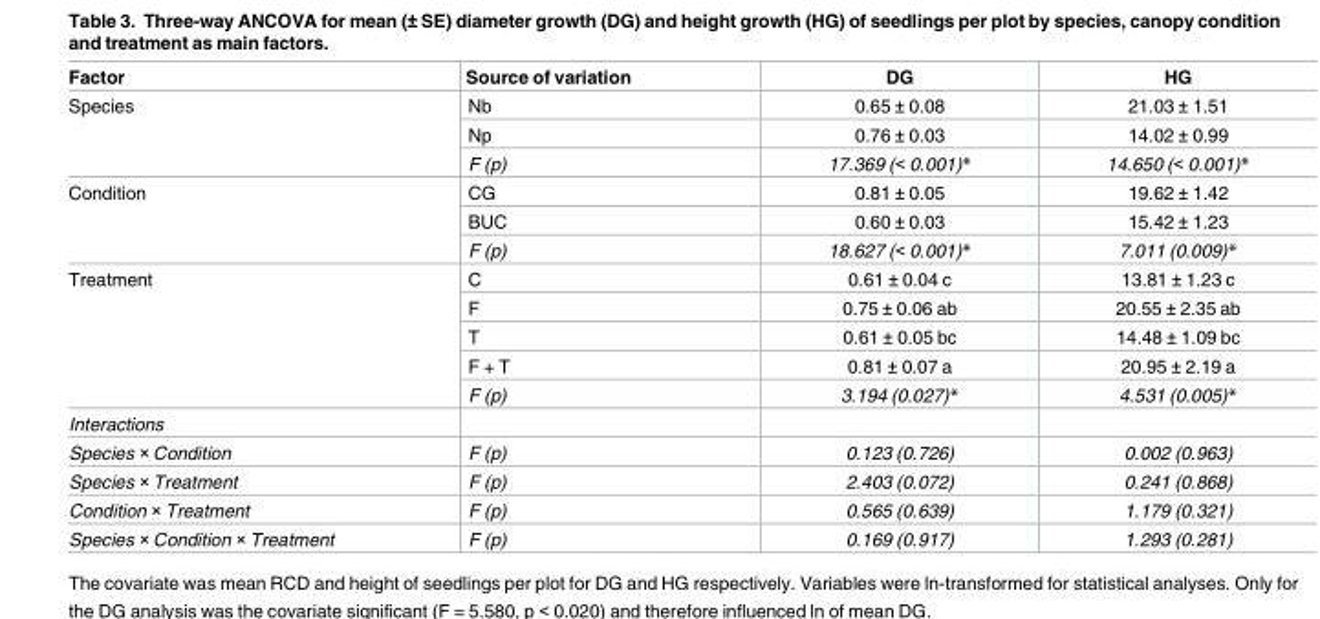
<table><thead><tr><td>Factor</td><td>Source of variation</td><td>DG</td><td>HG</td></tr></thead><tbody><tr><td rowspan="3">Species</td><td>Nb</td><td>0.65 ± 0.08</td><td>21.03 ± 1.51</td></tr><tr><td>Np</td><td>0.76 ± 0.03</td><td>14.02 ± 0.99</td></tr><tr><td>F (p)</td><td>17.369 (&lt; 0.001)*</td><td>14.650 (&lt; 0.001)*</td></tr><tr><td rowspan="3">Condition</td><td>CG</td><td>0.81 ± 0.05</td><td>19.62 ± 1.42</td></tr><tr><td>BUC</td><td>0.60 ± 0.03</td><td>15.42 ± 1.23</td></tr><tr><td>F (p)</td><td>18.627 (&lt; 0.001)*</td><td>7.011 (0.009)*</td></tr><tr><td rowspan="5">Treatment</td><td>C</td><td>0.61 ± 0.04 c</td><td>13.81 ± 1.23 c</td></tr><tr><td>F</td><td>0.75 ± 0.06 ab</td><td>20.55 ± 2.35 ab</td></tr><tr><td>T</td><td>0.61 ± 0.05 bc</td><td>14.48 ± 1.09 bc</td></tr><tr><td>F + T</td><td>0.81 ± 0.07 a</td><td>20.95 ± 2.19 a</td></tr><tr><td>F (p)</td><td>3.194 (0.027)*</td><td>4.531 (0.005)*</td></tr><tr><td colspan="4">Interactions</td></tr><tr><td>Species × Condition</td><td>F (p)</td><td>0.123 (0.726)</td><td>0.002 (0.963)</td></tr><tr><td>Species × Treatment</td><td>F (p)</td><td>2.403 (0.072)</td><td>0.241 (0.868)</td></tr><tr><td>Condition × Treatment</td><td>F (p)</td><td>0.565 (0.639)</td><td>1.179 (0.321)</td></tr><tr><td>Species × Condition × Treatment</td><td>F (p)</td><td>0.169 (0.917)</td><td>1.293 (0.281)</td></tr></tbody></table>